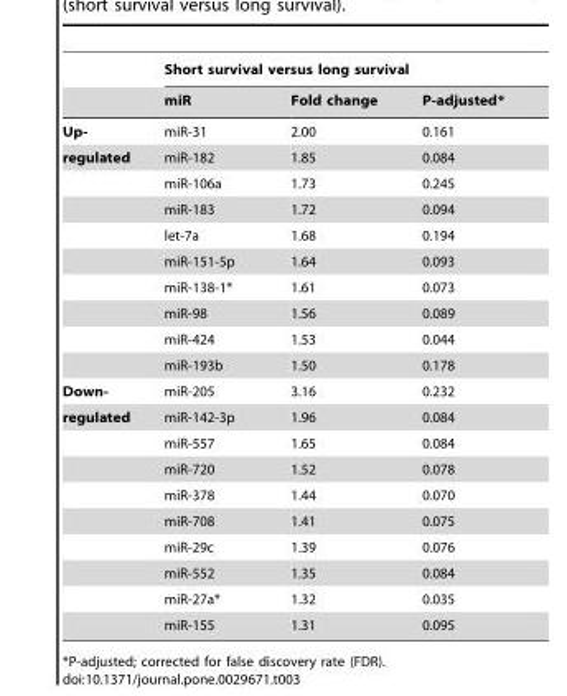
<table><thead><tr><td rowspan="2"></td><td colspan="3">Short survival versus long survival</td></tr><tr><td>miR</td><td>Fold change</td><td>P-adjusted*</td></tr></thead><tbody><tr><td>Up-</td><td>miR-31</td><td>2.00</td><td>0.161</td></tr><tr><td rowspan="9">regulated</td><td>miR-182</td><td>1.85</td><td>0.084</td></tr><tr><td>miR-106a</td><td>1.73</td><td>0.245</td></tr><tr><td>miR-183</td><td>1.72</td><td>0.094</td></tr><tr><td>let-7a</td><td>1.68</td><td>0.194</td></tr><tr><td>miR-151-5p</td><td>1.64</td><td>0.093</td></tr><tr><td>miR-138-1*</td><td>1.61</td><td>0.073</td></tr><tr><td>miR-98</td><td>1.56</td><td>0.089</td></tr><tr><td>miR-424</td><td>1.53</td><td>0.044</td></tr><tr><td>miR-193b</td><td>1.50</td><td>0.178</td></tr><tr><td>Down-</td><td>miR-205</td><td>3.16</td><td>0.232</td></tr><tr><td rowspan="9">regulated</td><td>miR-142-3p</td><td>1.96</td><td>0.084</td></tr><tr><td>miR-557</td><td>1.65</td><td>0.084</td></tr><tr><td>miR-720</td><td>1.52</td><td>0.078</td></tr><tr><td>miR-378</td><td>1.44</td><td>0.070</td></tr><tr><td>miR-708</td><td>1.41</td><td>0.075</td></tr><tr><td>miR-29c</td><td>1.39</td><td>0.076</td></tr><tr><td>miR-552</td><td>1.35</td><td>0.084</td></tr><tr><td>miR-27a*</td><td>1.32</td><td>0.035</td></tr><tr><td>miR-155</td><td>1.31</td><td>0.095</td></tr></tbody></table>